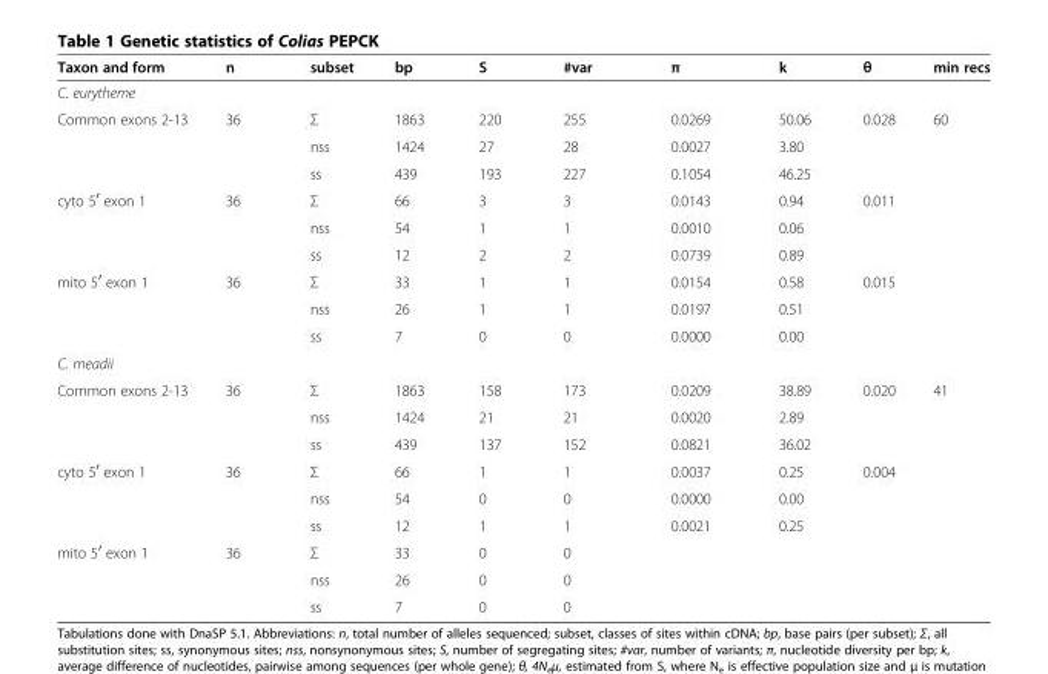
<table><thead><tr><td>Taxon and form</td><td>n</td><td>subset</td><td>bp</td><td>S</td><td>#var</td><td>π</td><td>k</td><td>θ</td><td>min recs</td></tr></thead><tbody><tr><td colspan="10">C. eurytheme</td></tr><tr><td rowspan="3">Common exons 2-13</td><td rowspan="3">36</td><td>Σ</td><td>1863</td><td>220</td><td>255</td><td>0.0269</td><td>50.06</td><td>0.028</td><td>60</td></tr><tr><td>nss</td><td>1424</td><td>27</td><td>28</td><td>0.0027</td><td>3.80</td><td></td><td></td></tr><tr><td>ss</td><td>439</td><td>193</td><td>227</td><td>0.1054</td><td>46.25</td><td></td><td></td></tr><tr><td rowspan="3">cyto 5<sup>′</sup> exon 1</td><td rowspan="3">36</td><td>Σ</td><td>66</td><td>3</td><td>3</td><td>0.0143</td><td>0.94</td><td>0.011</td><td></td></tr><tr><td>nss</td><td>54</td><td>1</td><td>1</td><td>0.0010</td><td>0.06</td><td></td><td></td></tr><tr><td>ss</td><td>12</td><td>2</td><td>2</td><td>0.0739</td><td>0.89</td><td></td><td></td></tr><tr><td rowspan="3">mito 5<sup>′</sup> exon 1</td><td rowspan="3">36</td><td>Σ</td><td>33</td><td>1</td><td>1</td><td>0.0154</td><td>0.58</td><td>0.015</td><td></td></tr><tr><td>nss</td><td>26</td><td>1</td><td>1</td><td>0.0197</td><td>0.51</td><td></td><td></td></tr><tr><td>ss</td><td>7</td><td>0</td><td>0</td><td>0.0000</td><td>0.00</td><td></td><td></td></tr><tr><td colspan="10">C. meadii</td></tr><tr><td rowspan="3">Common exons 2-13</td><td rowspan="3">36</td><td>Σ</td><td>1863</td><td>158</td><td>173</td><td>0.0209</td><td>38.89</td><td>0.020</td><td>41</td></tr><tr><td>nss</td><td>1424</td><td>21</td><td>21</td><td>0.0020</td><td>2.89</td><td></td><td></td></tr><tr><td>ss</td><td>439</td><td>137</td><td>152</td><td>0.0821</td><td>36.02</td><td></td><td></td></tr><tr><td rowspan="3">cyto 5<sup>′</sup> exon 1</td><td rowspan="3">36</td><td>Σ</td><td>66</td><td>1</td><td>1</td><td>0.0037</td><td>0.25</td><td>0.004</td><td></td></tr><tr><td>nss</td><td>54</td><td>0</td><td>0</td><td>0.0000</td><td>0.00</td><td></td><td></td></tr><tr><td>ss</td><td>12</td><td>1</td><td>1</td><td>0.0021</td><td>0.25</td><td></td><td></td></tr><tr><td rowspan="3">mito 5<sup>′</sup> exon 1</td><td rowspan="2">36</td><td>Σ</td><td>33</td><td>0</td><td>0</td><td></td><td></td><td></td><td></td></tr><tr><td>nss</td><td>26</td><td>0</td><td>0</td><td></td><td></td><td></td><td></td></tr><tr><td></td><td>ss</td><td>7</td><td>0</td><td>0</td><td></td><td></td><td></td><td></td></tr></tbody></table>